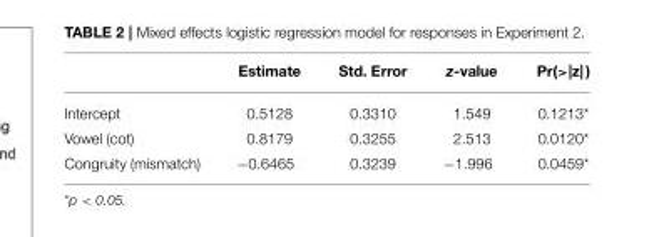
<table><thead><tr><td></td><td>Estimate</td><td>Std. Error</td><td>z-value</td><td>Pr(&gt;|z| )</td></tr></thead><tbody><tr><td>Intercept</td><td>0.5128</td><td>0.3310</td><td>1.549</td><td>0.1213*</td></tr><tr><td>Vowel (cot)</td><td>0.8179</td><td>0.3255</td><td>2.513</td><td>0.0120*</td></tr><tr><td>Congruity (mismatch)</td><td>−0.6465</td><td>0.3239</td><td>−1.996</td><td>0.0459*</td></tr></tbody></table>